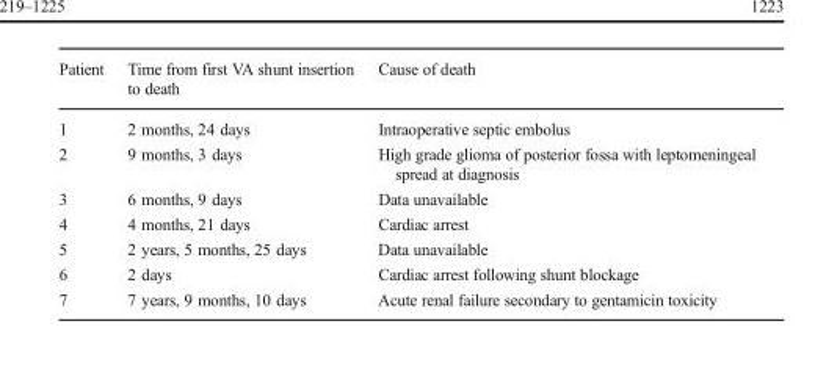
<table><thead><tr><td>Patient</td><td>Time from first VA shunt insertion to death</td><td>Cause of death</td></tr></thead><tbody><tr><td>1</td><td>2 months, 24 days</td><td>Intraoperative septic embolus</td></tr><tr><td>2</td><td>9 months, 3 days</td><td>High grade glioma of posterior fossa with leptomeningeal spread at diagnosis</td></tr><tr><td>3</td><td>6 months, 9 days</td><td>Data unavailable</td></tr><tr><td>4</td><td>4 months, 21 days</td><td>Cardiac arrest</td></tr><tr><td>5</td><td>2 years, 5 months, 25 days</td><td>Data unavailable</td></tr><tr><td>6</td><td>2 days</td><td>Cardiac arrest following shunt blockage</td></tr><tr><td>7</td><td>7 years, 9 months, 10 days</td><td>Acute renal failure secondary to gentamicin toxicity</td></tr></tbody></table>